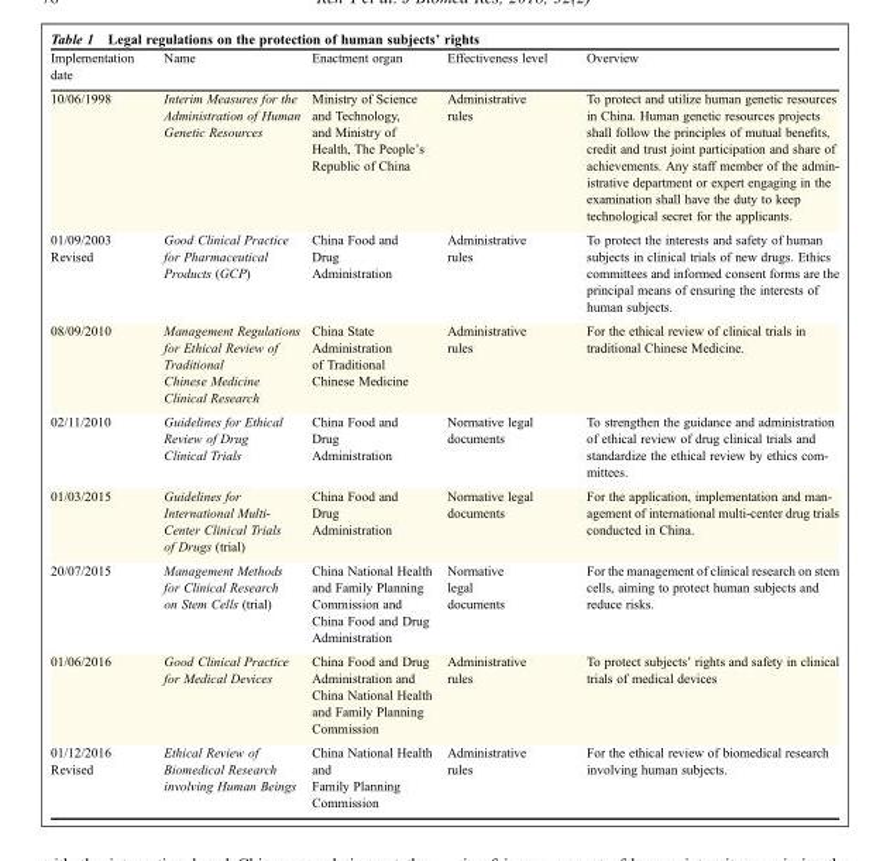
<table><thead><tr><td>Implementation date</td><td>Name</td><td>Enactment organ</td><td>Effectiveness level</td><td>Overview</td></tr></thead><tbody><tr><td>10/06/1998</td><td>Interim Measures for the Administration of Human Genetic Resources</td><td>Ministry of Science and Technology, and Ministry of Health, The People’s Republic of China</td><td>Administrative rules</td><td>To protect and utilize human genetic resources in China. Human genetic resources projects shall follow the principles of mutual benefits, credit and trust joint participation and share of achievements. Any staff member of the admin- istrative department or expert engaging in the examination shall have the duty to keep technological secret for the applicants.</td></tr><tr><td>01/09/2003 Revised</td><td>Good Clinical Practice for Pharmaceutical Products (GCP)</td><td>China Food and Drug Administration</td><td>Administrative rules</td><td>To protect the interests and safety of human subjects in clinical trials of new drugs. Ethics committees and informed consent forms are the principal means of ensuring the interests of human subjects.</td></tr><tr><td>08/09/2010</td><td>Management Regulations for Ethical Review of Traditional Chinese Medicine Clinical Research</td><td>China State Administration of Traditional Chinese Medicine</td><td>Administrative rules</td><td>For the ethical review of clinical trials in traditional Chinese Medicine.</td></tr><tr><td>02/11/2010</td><td>Guidelines for Ethical Review of Drug Clinical Trials</td><td>China Food and Drug Administration</td><td>Normative legal documents</td><td>To strengthen the guidance and administration of ethical review of drug clinical trials and standardize the ethical review by ethics com- mittees.</td></tr><tr><td>01/03/2015</td><td>Guidelines for International Multi- Center Clinical Trials of Drugs (trial)</td><td>China Food and Drug Administration</td><td>Normative legal documents</td><td>For the application, implementation and man- agement of international multi-center drug trials conducted in China.</td></tr><tr><td>20/07/2015</td><td>Management Methods for Clinical Research on Stem Cells (trial)</td><td>China National Health and Family Planning Commission and China Food and Drug Administration</td><td>Normative legal documents</td><td>For the management of clinical research on stem cells, aiming to protect human subjects and reduce risks.</td></tr><tr><td>01/06/2016</td><td>Good Clinical Practice for Medical Devices</td><td>China Food and Drug Administration and China National Health and Family Planning Commission</td><td>Administrative rules</td><td>To protect subjects’ rights and safety in clinical trials of medical devices</td></tr><tr><td>01/12/2016 Revised</td><td>Ethical Review of Biomedical Research involving Human Beings</td><td>China National Health and Family Planning Commission</td><td>Administrative rules</td><td>For the ethical review of biomedical research involving human subjects.</td></tr></tbody></table>